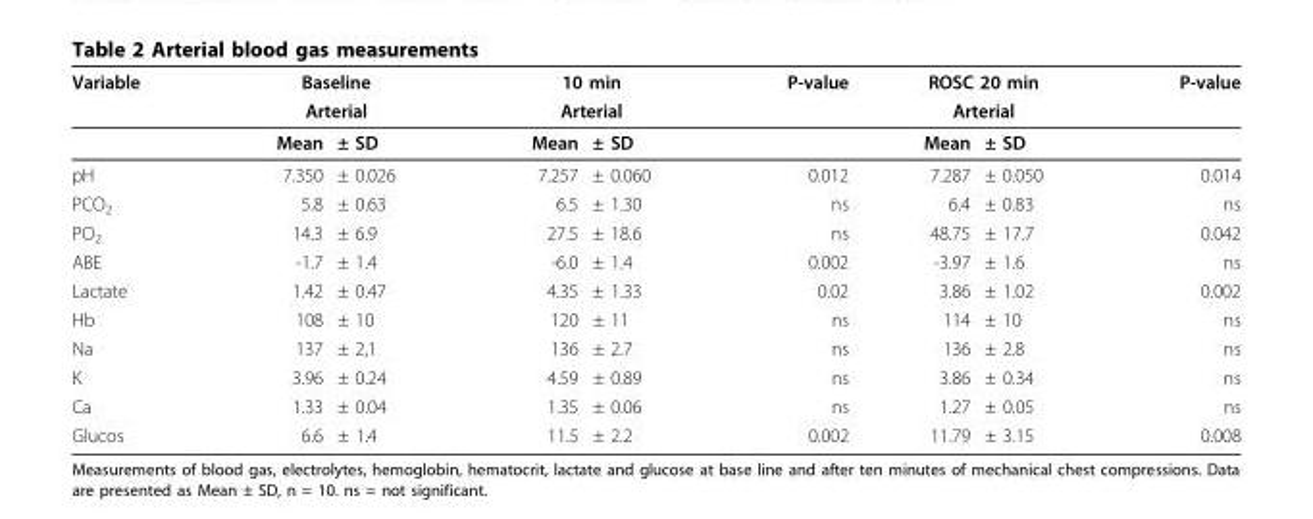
<table><thead><tr><td rowspan="3">Variable</td><td rowspan="2" colspan="2">Baseline Arterial</td><td rowspan="2" colspan="2">10 min Arterial</td><td rowspan="3">P-value</td><td rowspan="2" colspan="2">ROSC 20 min Arterial</td><td rowspan="3">P-value</td></tr><tr></tr><tr><td>Mean</td><td>± SD</td><td>Mean</td><td>± SD</td><td>Mean</td><td>± SD</td></tr></thead><tbody><tr><td>pH</td><td>7.350</td><td>± 0.026</td><td>7.257</td><td>± 0.060</td><td>0.012</td><td>7.287</td><td>± 0.050</td><td>0.014</td></tr><tr><td>PCO<sub>2</sub></td><td>5.8</td><td>± 0.63</td><td>6.5</td><td>± 1.30</td><td>ns</td><td>6.4</td><td>± 0.83</td><td>ns</td></tr><tr><td>PO<sub>2</sub></td><td>14.3</td><td>± 6.9</td><td>27.5</td><td>± 18.6</td><td>ns</td><td>48.75</td><td>± 17.7</td><td>0.042</td></tr><tr><td>ABE</td><td>-1.7</td><td>± 1.4</td><td>-6.0</td><td>± 1.4</td><td>0.002</td><td>-3.97</td><td>± 1.6</td><td>ns</td></tr><tr><td>Lactate</td><td>1.42</td><td>± 0.47</td><td>4.35</td><td>± 1.33</td><td>0.02</td><td>3.86</td><td>± 1.02</td><td>0.002</td></tr><tr><td>Hb</td><td>108</td><td>± 10</td><td>120</td><td>± 11</td><td>ns</td><td>114</td><td>± 10</td><td>ns</td></tr><tr><td>Na</td><td>137</td><td>± 2,1</td><td>136</td><td>± 2.7</td><td>ns</td><td>136</td><td>± 2.8</td><td>ns</td></tr><tr><td>K</td><td>3.96</td><td>± 0.24</td><td>4.59</td><td>± 0.89</td><td>ns</td><td>3.86</td><td>± 0.34</td><td>ns</td></tr><tr><td>Ca</td><td>1.33</td><td>± 0.04</td><td>1.35</td><td>± 0.06</td><td>ns</td><td>1.27</td><td>± 0.05</td><td>ns</td></tr><tr><td>Glucos</td><td>6.6</td><td>± 1.4</td><td>11.5</td><td>± 2.2</td><td>0.002</td><td>11.79</td><td>± 3.15</td><td>0.008</td></tr></tbody></table>